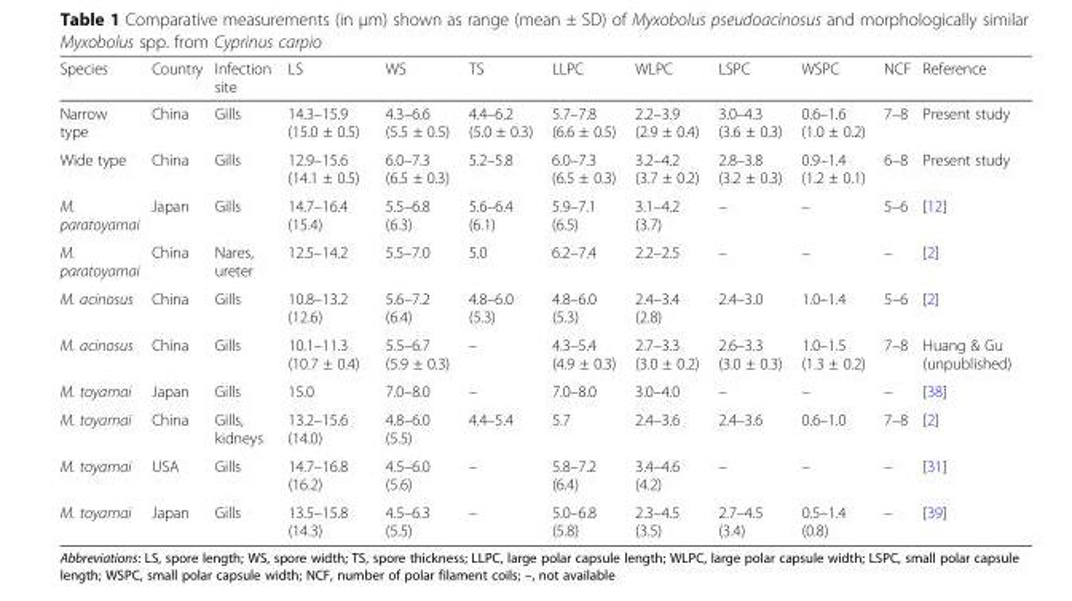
<table><thead><tr><td>Species</td><td>Country</td><td>Infection site</td><td>LS</td><td>WS</td><td>TS</td><td>LLPC</td><td>WLPC</td><td>LSPC</td><td>WSPC</td><td>NCF</td><td>Reference</td></tr></thead><tbody><tr><td>Narrow type</td><td>China</td><td>Gills</td><td>14.3–15.9 (15.0 ± 0.5)</td><td>4.3–6.6 (5.5 ± 0.5)</td><td>4.4–6.2 (5.0 ± 0.3)</td><td>5.7–7.8 (6.6 ± 0.5)</td><td>2.2–3.9 (2.9 ± 0.4)</td><td>3.0–4.3 (3.6 ± 0.3)</td><td>0.6–1.6 (1.0 ± 0.2)</td><td>7–8</td><td>Present study</td></tr><tr><td>Wide type</td><td>China</td><td>Gills</td><td>12.9–15.6 (14.1 ± 0.5)</td><td>6.0–7.3 (6.5 ± 0.3)</td><td>5.2–5.8</td><td>6.0–7.3 (6.5 ± 0.3)</td><td>3.2–4.2 (3.7 ± 0.2)</td><td>2.8–3.8 (3.2 ± 0.3)</td><td>0.9–1.4 (1.2 ± 0.1)</td><td>6–8</td><td>Present study</td></tr><tr><td>M. paratoyamai</td><td>Japan</td><td>Gills</td><td>14.7–16.4 (15.4)</td><td>5.5–6.8 (6.3)</td><td>5.6–6.4 (6.1)</td><td>5.9–7.1 (6.5)</td><td>3.1–4.2 (3.7)</td><td>–</td><td>–</td><td>5–6</td><td>[12]</td></tr><tr><td>M. paratoyamai</td><td>China</td><td>Nares, ureter</td><td>12.5–14.2</td><td>5.5–7.0</td><td>5.0</td><td>6.2–7.4</td><td>2.2–2.5</td><td>–</td><td>–</td><td>–</td><td>[2]</td></tr><tr><td>M. acinosus</td><td>China</td><td>Gills</td><td>10.8–13.2 (12.6)</td><td>5.6–7.2 (6.4)</td><td>4.8–6.0 (5.3)</td><td>4.8–6.0 (5.3)</td><td>2.4–3.4 (2.8)</td><td>2.4–3.0</td><td>1.0–1.4</td><td>5–6</td><td>[2]</td></tr><tr><td>M. acinosus</td><td>China</td><td>Gills</td><td>10.1–11.3 (10.7 ± 0.4)</td><td>5.5–6.7 (5.9 ± 0.3)</td><td>–</td><td>4.3–5.4 (4.9 ± 0.3)</td><td>2.7–3.3 (3.0 ± 0.2)</td><td>2.6–3.3 (3.0 ± 0.3)</td><td>1.0–1.5 (1.3 ± 0.2)</td><td>7–8</td><td>Huang &amp; Gu (unpublished)</td></tr><tr><td>M. toyamai</td><td>Japan</td><td>Gills</td><td>15.0</td><td>7.0–8.0</td><td>–</td><td>7.0–8.0</td><td>3.0–4.0</td><td>–</td><td>–</td><td>–</td><td>[38]</td></tr><tr><td>M. toyamai</td><td>China</td><td>Gills, kidneys</td><td>13.2–15.6 (14.0)</td><td>4.8–6.0 (5.5)</td><td>4.4–5.4</td><td>5.7</td><td>2.4–3.6</td><td>2.4–3.6</td><td>0.6–1.0</td><td>7–8</td><td>[2]</td></tr><tr><td>M. toyamai</td><td>USA</td><td>Gills</td><td>14.7–16.8 (16.2)</td><td>4.5–6.0 (5.6)</td><td>–</td><td>5.8–7.2 (6.4)</td><td>3.4–4.6 (4.2)</td><td>–</td><td>–</td><td>–</td><td>[31]</td></tr><tr><td>M. toyamai</td><td>Japan</td><td>Gills</td><td>13.5–15.8 (14.3)</td><td>4.5–6.3 (5.5)</td><td>–</td><td>5.0–6.8 (5.8)</td><td>2.3–4.5 (3.5)</td><td>2.7–4.5 (3.4)</td><td>0.5–1.4 (0.8)</td><td>–</td><td>[39]</td></tr></tbody></table>